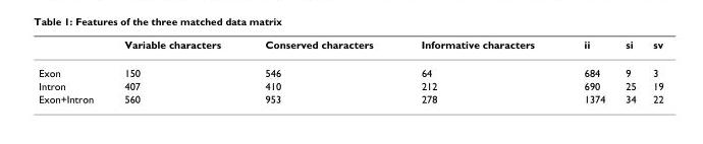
<table><thead><tr><td></td><td>Variable characters</td><td>Conserved characters</td><td>Informative characters</td><td>ii</td><td>si</td><td>sv</td></tr></thead><tbody><tr><td>Exon</td><td>150</td><td>546</td><td>64</td><td>684</td><td>9</td><td>3</td></tr><tr><td>Intron</td><td>407</td><td>410</td><td>212</td><td>690</td><td>25</td><td>19</td></tr><tr><td>Exon+Intron</td><td>560</td><td>953</td><td>278</td><td>1374</td><td>34</td><td>22</td></tr></tbody></table>